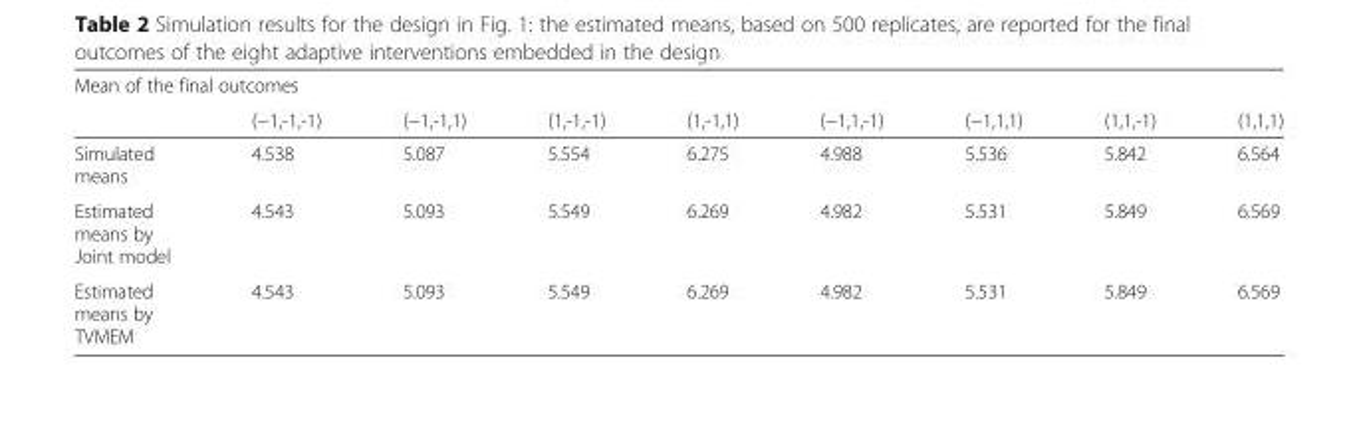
<table><tbody><tr><td colspan="9">Mean of the final outcomes</td></tr><tr><td></td><td>(−1,-1,-1)</td><td>(−1,-1,1)</td><td>(1,-1,-1)</td><td>(1,-1,1)</td><td>(−1,1,-1)</td><td>(−1,1,1)</td><td>(1,1,-1)</td><td>(1,1,1)</td></tr><tr><td>Simulated means</td><td>4.538</td><td>5.087</td><td>5.554</td><td>6.275</td><td>4.988</td><td>5.536</td><td>5.842</td><td>6.564</td></tr><tr><td>Estimated means by Joint model</td><td>4.543</td><td>5.093</td><td>5.549</td><td>6.269</td><td>4.982</td><td>5.531</td><td>5.849</td><td>6.569</td></tr><tr><td>Estimated means by TVMEM</td><td>4.543</td><td>5.093</td><td>5.549</td><td>6.269</td><td>4.982</td><td>5.531</td><td>5.849</td><td>6.569</td></tr></tbody></table>